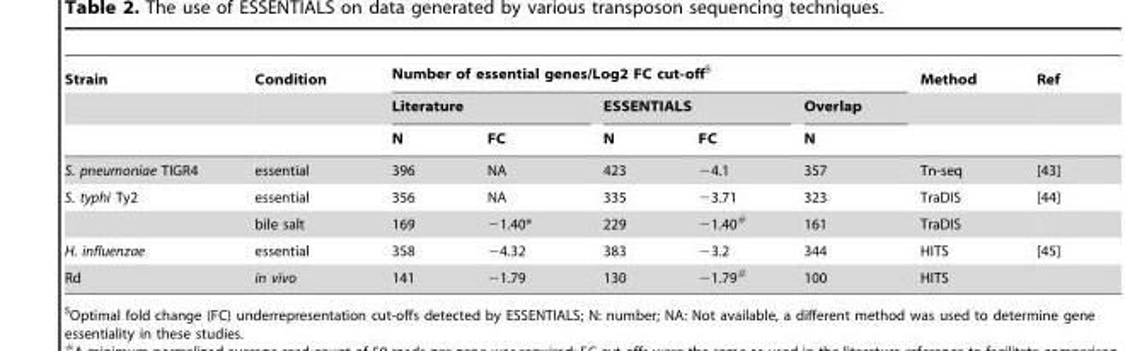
<table><thead><tr><td rowspan="3">Strain</td><td rowspan="3">Condition</td><td colspan="5">Number of essential genes/Log2 FC cut-off$</td><td rowspan="3">Method</td><td rowspan="3">Ref</td></tr><tr><td colspan="2">Literature</td><td colspan="2">ESSENTIALS</td><td rowspan="2">Overlap N</td></tr><tr><td>N</td><td>FC</td><td>N</td><td>FC</td></tr></thead><tbody><tr><td>S. pneumoniae TIGR4</td><td>essential</td><td>396</td><td>NA</td><td>423</td><td>−4.1</td><td>357</td><td>Tn-seq</td><td>[43]</td></tr><tr><td rowspan="2">S. typhi Ty2</td><td>essential</td><td>356</td><td>NA</td><td>335</td><td>−3.71</td><td>323</td><td>TraDIS</td><td>[44]</td></tr><tr><td>bile salt</td><td>169</td><td>−1.40*</td><td>229</td><td>−1.40#</td><td>161</td><td>TraDIS</td><td></td></tr><tr><td>H. influenzae</td><td>essential</td><td>358</td><td>−4.32</td><td>383</td><td>−3.2</td><td>344</td><td>HITS</td><td>[45]</td></tr><tr><td>Rd</td><td>in vivo</td><td>141</td><td>−1.79</td><td>130</td><td>−1.79#</td><td>100</td><td>HITS</td><td></td></tr></tbody></table>